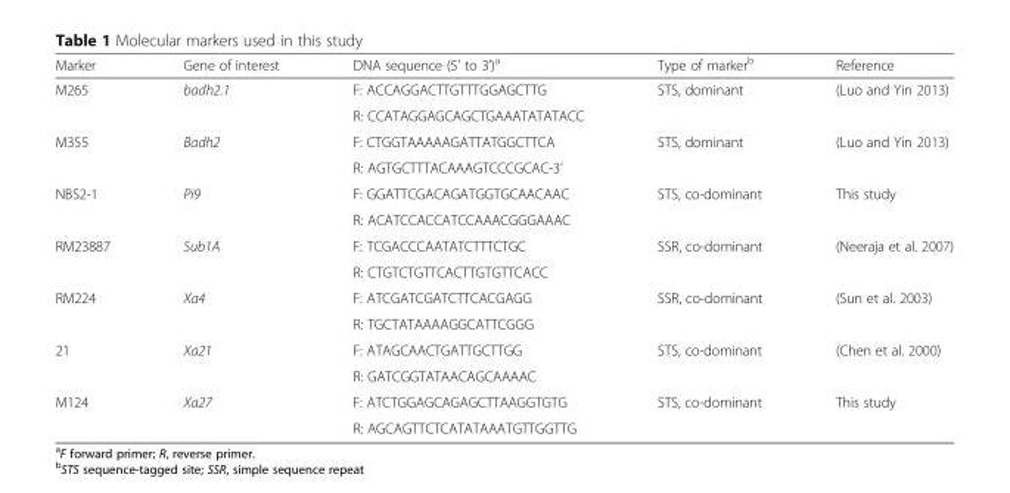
<table><thead><tr><td>Marker</td><td>Gene of interest</td><td>DNA sequence (5’ to 3’)<sup>a</sup></td><td>Type of marker<sup>b</sup></td><td>Reference</td></tr></thead><tbody><tr><td rowspan="2">M265</td><td rowspan="2">badh2.1</td><td>F: ACCAGGACTTGTTTGGAGCTTG</td><td rowspan="2">STS, dominant</td><td rowspan="2">(Luo and Yin 2013)</td></tr><tr><td>R: CCATAGGAGCAGCTGAAATATATACC</td></tr><tr><td rowspan="2">M355</td><td rowspan="2">Badh2</td><td>F: CTGGTAAAAAGATTATGGCTTCA</td><td rowspan="2">STS, dominant</td><td rowspan="2">(Luo and Yin 2013)</td></tr><tr><td>R: AGTGCTTTACAAAGTCCCGCAC-3’</td></tr><tr><td rowspan="2">NBS2-1</td><td rowspan="2">Pi9</td><td>F: GGATTCGACAGATGGTGCAACAAC</td><td rowspan="2">STS, co-dominant</td><td rowspan="2">This study</td></tr><tr><td>R: ACATCCACCATCCAAACGGGAAAC</td></tr><tr><td rowspan="2">RM23887</td><td rowspan="2">Sub1A</td><td>F: TCGACCCAATATCTTTCTGC</td><td rowspan="2">SSR, co-dominant</td><td rowspan="2">(Neeraja et al. 2007)</td></tr><tr><td>R: CTGTCTGTTCACTTGTGTTCACC</td></tr><tr><td rowspan="2">RM224</td><td rowspan="2">Xa4</td><td>F: ATCGATCGATCTTCACGAGG</td><td rowspan="2">SSR, co-dominant</td><td rowspan="2">(Sun et al. 2003)</td></tr><tr><td>R: TGCTATAAAAGGCATTCGGG</td></tr><tr><td rowspan="2">21</td><td rowspan="2">Xa21</td><td>F: ATAGCAACTGATTGCTTGG</td><td rowspan="2">STS, co-dominant</td><td rowspan="2">(Chen et al. 2000)</td></tr><tr><td>R: GATCGGTATAACAGCAAAAC</td></tr><tr><td rowspan="2">M124</td><td rowspan="2">Xa27</td><td>F: ATCTGGAGCAGAGCTTAAGGTGTG</td><td rowspan="2">STS, co-dominant</td><td rowspan="2">This study</td></tr><tr><td>R: AGCAGTTCTCATATAAATGTTGGTTG</td></tr></tbody></table>